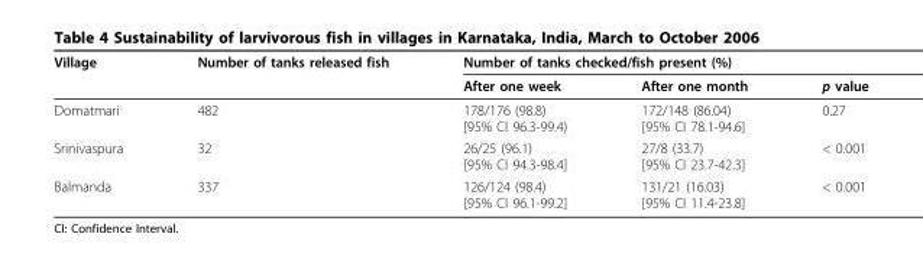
<table><thead><tr><td rowspan="2">Village</td><td rowspan="2">Number of tanks released fish</td><td colspan="3">Number of tanks checked/fish present (%)</td></tr><tr><td>After one week</td><td>After one month</td><td>p value</td></tr></thead><tbody><tr><td>Domatmari</td><td>482</td><td>178/176 (98.8) [95% CI 96.3-99.4)</td><td>172/148 (86.04) [95% CI 78.1-94.6]</td><td>0.27</td></tr><tr><td>Srinivaspura</td><td>32</td><td>26/25 (96.1) [95% CI 94.3-98.4]</td><td>27/8 (33.7) [95% CI 23.7-42.3]</td><td>&lt; 0.001</td></tr><tr><td>Balmanda</td><td>337</td><td>126/124 (98.4) [95% CI 96.1-99.2]</td><td>131/21 (16.03) [95% CI 11.4-23.8]</td><td>&lt; 0.001</td></tr></tbody></table>